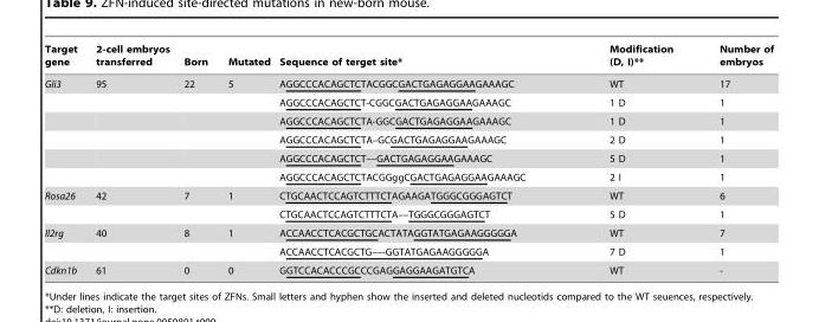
<table><thead><tr><td>Target gene</td><td>2-cell embryos transferred</td><td>Born</td><td>Mutated</td><td>Sequence of terget site*</td><td>Modification (D, I)**</td><td>Number of embryos</td></tr></thead><tbody><tr><td rowspan="6">Gli3</td><td>95</td><td>22</td><td>5</td><td>AGGCCCACAGCTCTACGGCGACTGAGAGGAAGAAAGC</td><td>WT</td><td>17</td></tr><tr><td></td><td></td><td></td><td>AGGCCCACAGCTCT-CGGCGACTGAGAGGAAGAAAGC</td><td>1 D</td><td>1</td></tr><tr><td></td><td></td><td></td><td>AGGCCCACAGCTCTA-GGCGACTGAGAGGAAGAAAGC</td><td>1 D</td><td>1</td></tr><tr><td></td><td></td><td></td><td>AGGCCCACAGCTCTA–GCGACTGAGAGGAAGAAAGC</td><td>2 D</td><td>1</td></tr><tr><td></td><td></td><td></td><td>AGGCCCACAGCTCT––GACTGAGAGGAAGAAAGC</td><td>5 D</td><td>1</td></tr><tr><td></td><td></td><td></td><td>AGGCCCACAGCTCTACGGggCGACTGAGAGGAAGAAAGC</td><td>2 I</td><td>1</td></tr><tr><td rowspan="2">Rosa26</td><td>42</td><td>7</td><td>1</td><td>CTGCAACTCCAGTCTTTCTAGAAGATGGGCGGGAGTCT</td><td>WT</td><td>6</td></tr><tr><td></td><td></td><td></td><td>CTGCAACTCCAGTCTTTCTA––TGGGCGGGAGTCT</td><td>5 D</td><td>1</td></tr><tr><td rowspan="2">Il2rg</td><td>40</td><td>8</td><td>1</td><td>ACCAACCTCACGCTGCACTATAGGTATGAGAAGGGGGA</td><td>WT</td><td>7</td></tr><tr><td></td><td></td><td></td><td>ACCAACCTCACGCTG––-GGTATGAGAAGGGGGA</td><td>7 D</td><td>1</td></tr><tr><td>Cdkn1b</td><td>61</td><td>0</td><td>0</td><td>GGTCCACACCCGCCCGAGGAGGAAGATGTCA</td><td>WT</td><td>-</td></tr></tbody></table>